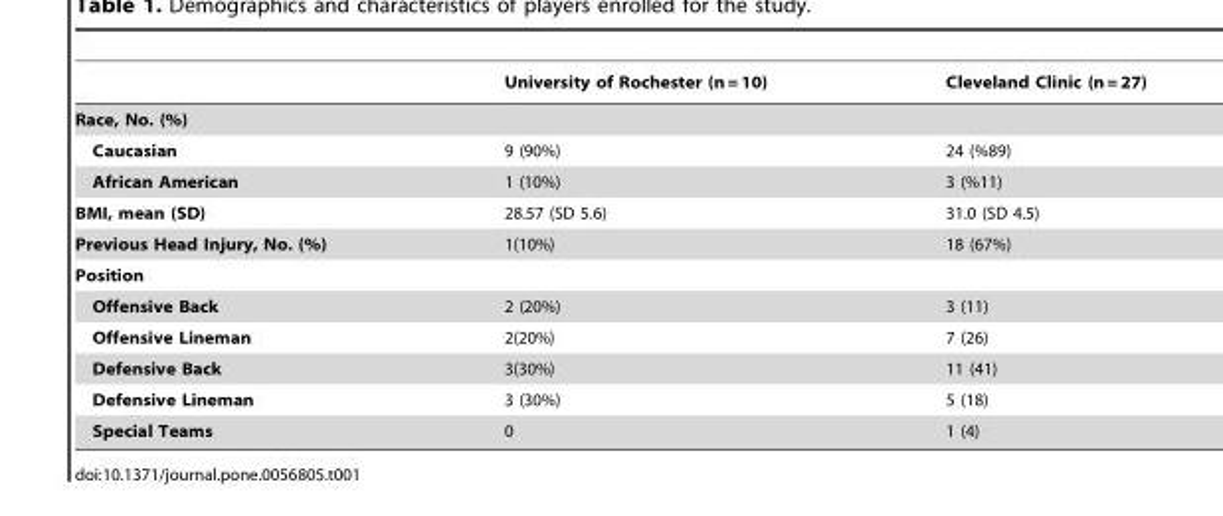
<table><thead><tr><td></td><td>University of Rochester (n = 10)</td><td>Cleveland Clinic (n = 27)</td></tr></thead><tbody><tr><td colspan="3">Race, No. (%)</td></tr><tr><td>Caucasian</td><td>9 (90%)</td><td>24 (%89)</td></tr><tr><td>African American</td><td>1 (10%)</td><td>3 (%11)</td></tr><tr><td>BMI, mean (SD)</td><td>28.57 (SD 5.6)</td><td>31.0 (SD 4.5)</td></tr><tr><td>Previous Head Injury, No. (%)</td><td>1(10%)</td><td>18 (67%)</td></tr><tr><td colspan="3">Position</td></tr><tr><td>Offensive Back</td><td>2 (20%)</td><td>3 (11)</td></tr><tr><td>Offensive Lineman</td><td>2(20%)</td><td>7 (26)</td></tr><tr><td>Defensive Back</td><td>3(30%)</td><td>11 (41)</td></tr><tr><td>Defensive Lineman</td><td>3 (30%)</td><td>5 (18)</td></tr><tr><td>Special Teams</td><td>0</td><td>1 (4)</td></tr></tbody></table>